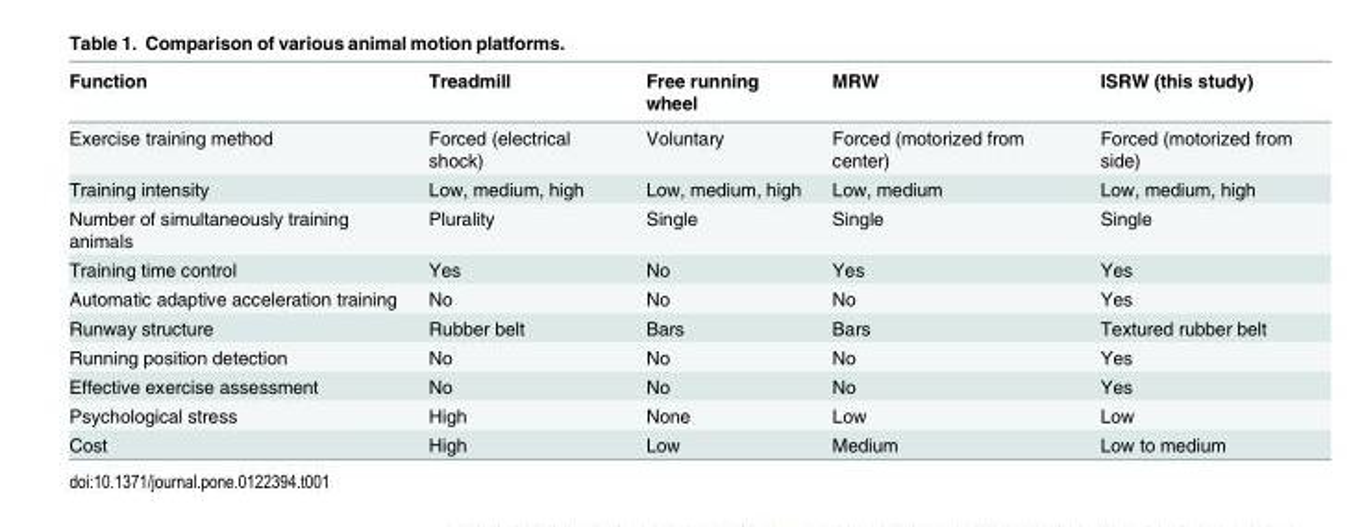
<table><thead><tr><td>Function</td><td>Treadmill</td><td>Free running wheel</td><td>MRW</td><td>ISRW (this study)</td></tr></thead><tbody><tr><td>Exercise training method</td><td>Forced (electrical shock)</td><td>Voluntary</td><td>Forced (motorized from center)</td><td>Forced (motorized from side)</td></tr><tr><td>Training intensity</td><td>Low, medium, high</td><td>Low, medium, high</td><td>Low, medium</td><td>Low, medium, high</td></tr><tr><td>Number of simultaneously training animals</td><td>Plurality</td><td>Single</td><td>Single</td><td>Single</td></tr><tr><td>Training time control</td><td>Yes</td><td>No</td><td>Yes</td><td>Yes</td></tr><tr><td>Automatic adaptive acceleration training</td><td>No</td><td>No</td><td>No</td><td>Yes</td></tr><tr><td>Runway structure</td><td>Rubber belt</td><td>Bars</td><td>Bars</td><td>Textured rubber belt</td></tr><tr><td>Running position detection</td><td>No</td><td>No</td><td>No</td><td>Yes</td></tr><tr><td>Effective exercise assessment</td><td>No</td><td>No</td><td>No</td><td>Yes</td></tr><tr><td>Psychological stress</td><td>High</td><td>None</td><td>Low</td><td>Low</td></tr><tr><td>Cost</td><td>High</td><td>Low</td><td>Medium</td><td>Low to medium</td></tr></tbody></table>